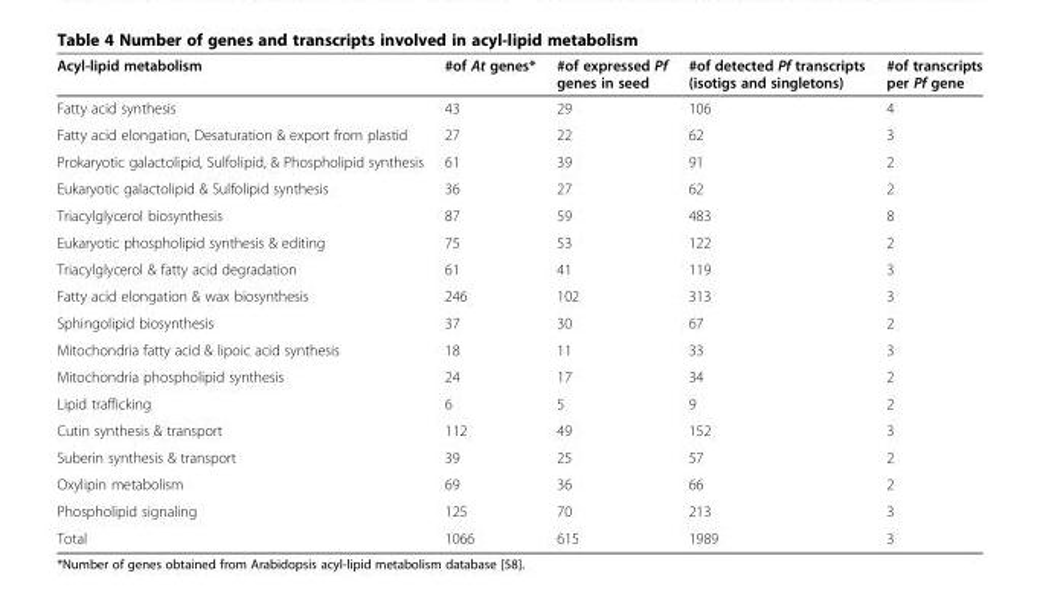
<table><thead><tr><td>Acyl-lipid metabolism</td><td>#of At genes*</td><td>#of expressed Pf genes in seed</td><td>#of detected Pf transcripts (isotigs and singletons)</td><td>#of transcripts per Pf gene</td></tr></thead><tbody><tr><td>Fatty acid synthesis</td><td>43</td><td>29</td><td>106</td><td>4</td></tr><tr><td>Fatty acid elongation, Desaturation &amp; export from plastid</td><td>27</td><td>22</td><td>62</td><td>3</td></tr><tr><td>Prokaryotic galactolipid, Sulfolipid, &amp; Phospholipid synthesis</td><td>61</td><td>39</td><td>91</td><td>2</td></tr><tr><td>Eukaryotic galactolipid &amp; Sulfolipid synthesis</td><td>36</td><td>27</td><td>62</td><td>2</td></tr><tr><td>Triacylglycerol biosynthesis</td><td>87</td><td>59</td><td>483</td><td>8</td></tr><tr><td>Eukaryotic phospholipid synthesis &amp; editing</td><td>75</td><td>53</td><td>122</td><td>2</td></tr><tr><td>Triacylglycerol &amp; fatty acid degradation</td><td>61</td><td>41</td><td>119</td><td>3</td></tr><tr><td>Fatty acid elongation &amp; wax biosynthesis</td><td>246</td><td>102</td><td>313</td><td>3</td></tr><tr><td>Sphingolipid biosynthesis</td><td>37</td><td>30</td><td>67</td><td>2</td></tr><tr><td>Mitochondria fatty acid &amp; lipoic acid synthesis</td><td>18</td><td>11</td><td>33</td><td>3</td></tr><tr><td>Mitochondria phospholipid synthesis</td><td>24</td><td>17</td><td>34</td><td>2</td></tr><tr><td>Lipid trafficking</td><td>6</td><td>5</td><td>9</td><td>2</td></tr><tr><td>Cutin synthesis &amp; transport</td><td>112</td><td>49</td><td>152</td><td>3</td></tr><tr><td>Suberin synthesis &amp; transport</td><td>39</td><td>25</td><td>57</td><td>2</td></tr><tr><td>Oxylipin metabolism</td><td>69</td><td>36</td><td>66</td><td>2</td></tr><tr><td>Phospholipid signaling</td><td>125</td><td>70</td><td>213</td><td>3</td></tr><tr><td>Total</td><td>1066</td><td>615</td><td>1989</td><td>3</td></tr></tbody></table>